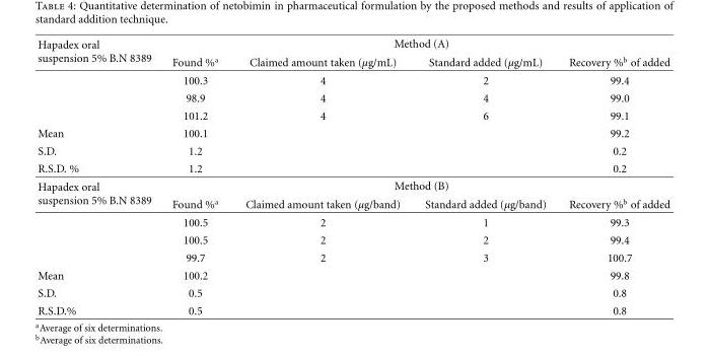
<table><thead><tr><td rowspan="2">Hapadex oral suspension 5% B.N 8389</td><td colspan="4">Method (A)</td></tr><tr><td>Found %<sup>a</sup></td><td>Claimed amount taken (μg/mL)</td><td>Standard added (μg/mL)</td><td>Recovery %<sup>b</sup> of added</td></tr></thead><tbody><tr><td></td><td>100.3</td><td>4</td><td>2</td><td>99.4</td></tr><tr><td></td><td>98.9</td><td>4</td><td>4</td><td>99.0</td></tr><tr><td></td><td>101.2</td><td>4</td><td>6</td><td>99.1</td></tr><tr><td>Mean</td><td>100.1</td><td></td><td></td><td>99.2</td></tr><tr><td>S.D.</td><td>1.2</td><td></td><td></td><td>0.2</td></tr><tr><td>R.S.D. %</td><td>1.2</td><td></td><td></td><td>0.2</td></tr><tr><td rowspan="5">Hapadex oral suspension 5% B.N 8389</td><td colspan="4">Method (B)</td></tr><tr><td>Found %<sup>a</sup></td><td>Claimed amount taken (μg/band)</td><td>Standard added (μg/band)</td><td>Recovery %<sup>b</sup> of added</td></tr><tr><td>100.5</td><td>2</td><td>1</td><td>99.3</td></tr><tr><td>100.5</td><td>2</td><td>2</td><td>99.4</td></tr><tr><td>99.7</td><td>2</td><td>3</td><td>100.7</td></tr><tr><td>Mean</td><td>100.2</td><td></td><td></td><td>99.8</td></tr><tr><td>S.D.</td><td>0.5</td><td></td><td></td><td>0.8</td></tr><tr><td>R.S.D.%</td><td>0.5</td><td></td><td></td><td>0.8</td></tr></tbody></table>